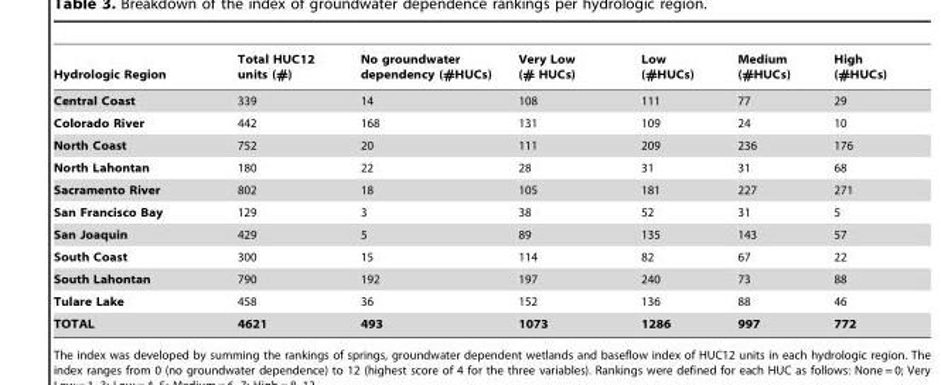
<table><thead><tr><td>Hydrologic Region</td><td>Total HUC12 units (#)</td><td>No groundwater dependency (#HUCs)</td><td>Very Low (# HUCs)</td><td>Low (#HUCs)</td><td>Medium (#HUCs)</td><td>High (#HUCs)</td></tr></thead><tbody><tr><td>Central Coast</td><td>339</td><td>14</td><td>108</td><td>111</td><td>77</td><td>29</td></tr><tr><td>Colorado River</td><td>442</td><td>168</td><td>131</td><td>109</td><td>24</td><td>10</td></tr><tr><td>North Coast</td><td>752</td><td>20</td><td>111</td><td>209</td><td>236</td><td>176</td></tr><tr><td>North Lahontan</td><td>180</td><td>22</td><td>28</td><td>31</td><td>31</td><td>68</td></tr><tr><td>Sacramento River</td><td>802</td><td>18</td><td>105</td><td>181</td><td>227</td><td>271</td></tr><tr><td>San Francisco Bay</td><td>129</td><td>3</td><td>38</td><td>52</td><td>31</td><td>5</td></tr><tr><td>San Joaquin</td><td>429</td><td>5</td><td>89</td><td>135</td><td>143</td><td>57</td></tr><tr><td>South Coast</td><td>300</td><td>15</td><td>114</td><td>82</td><td>67</td><td>22</td></tr><tr><td>South Lahontan</td><td>790</td><td>192</td><td>197</td><td>240</td><td>73</td><td>88</td></tr><tr><td>Tulare Lake</td><td>458</td><td>36</td><td>152</td><td>136</td><td>88</td><td>46</td></tr><tr><td>TOTAL</td><td>4621</td><td>493</td><td>1073</td><td>1286</td><td>997</td><td>772</td></tr></tbody></table>